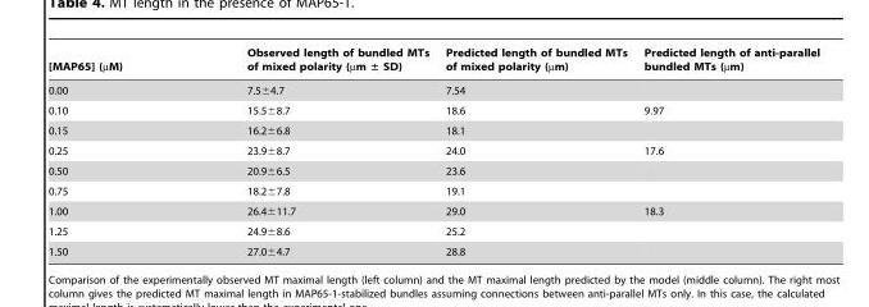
<table><thead><tr><td>[MAP65] (µM)</td><td>Observed length of bundled MTs of mixed polarity (µm ± SD)</td><td>Predicted length of bundled MTs of mixed polarity (µm)</td><td>Predicted length of anti-parallel bundled MTs (µm)</td></tr></thead><tbody><tr><td>0.00</td><td>7.5±4.7</td><td>7.54</td><td></td></tr><tr><td>0.10</td><td>15.5±8.7</td><td>18.6</td><td>9.97</td></tr><tr><td>0.15</td><td>16.2±6.8</td><td>18.1</td><td></td></tr><tr><td>0.25</td><td>23.9±8.7</td><td>24.0</td><td>17.6</td></tr><tr><td>0.50</td><td>20.9±6.5</td><td>23.6</td><td></td></tr><tr><td>0.75</td><td>18.2±7.8</td><td>19.1</td><td></td></tr><tr><td>1.00</td><td>26.4±11.7</td><td>29.0</td><td>18.3</td></tr><tr><td>1.25</td><td>24.9±8.6</td><td>25.2</td><td></td></tr><tr><td>1.50</td><td>27.0±4.7</td><td>28.8</td><td></td></tr></tbody></table>